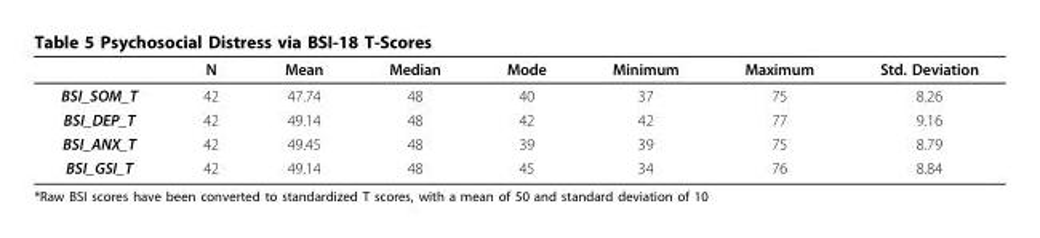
<table><thead><tr><td></td><td>N</td><td>Mean</td><td>Median</td><td>Mode</td><td>Minimum</td><td>Maximum</td><td>Std. Deviation</td></tr></thead><tbody><tr><td>BSI_SOM_T</td><td>42</td><td>47.74</td><td>48</td><td>40</td><td>37</td><td>75</td><td>8.26</td></tr><tr><td>BSI_DEP_T</td><td>42</td><td>49.14</td><td>48</td><td>42</td><td>42</td><td>77</td><td>9.16</td></tr><tr><td>BSI_ANX_T</td><td>42</td><td>49.45</td><td>48</td><td>39</td><td>39</td><td>75</td><td>8.79</td></tr><tr><td>BSI_GSI_T</td><td>42</td><td>49.14</td><td>48</td><td>45</td><td>34</td><td>76</td><td>8.84</td></tr></tbody></table>